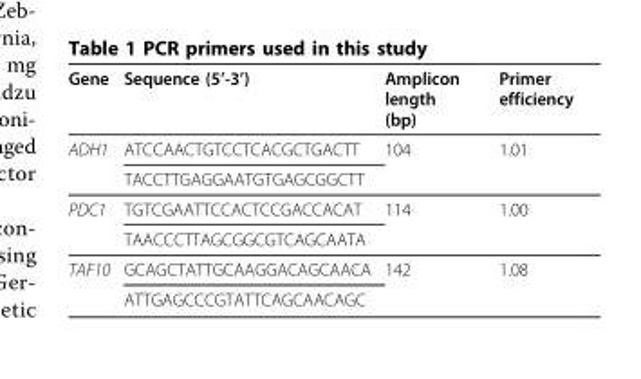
<table><thead><tr><td>Gene</td><td>Sequence (5’-3’)</td><td>Amplicon length (bp)</td><td>Primer efficiency</td></tr></thead><tbody><tr><td rowspan="2">ADH1</td><td>ATCCAACTGTCCTCACGCTGACTT</td><td>104</td><td>1.01</td></tr><tr><td>TACCTTGAGGAATGTGAGCGGCTT</td><td></td><td></td></tr><tr><td rowspan="2">PDC1</td><td>TGTCGAATTCCACTCCGACCACAT</td><td>114</td><td>1.00</td></tr><tr><td>TAACCCTTAGCGGCGTCAGCAATA</td><td></td><td></td></tr><tr><td rowspan="2">TAF10</td><td>GCAGCTATTGCAAGGACAGCAACA</td><td>142</td><td>1.08</td></tr><tr><td>ATTGAGCCCGTATTCAGCAACAGC</td><td></td><td></td></tr></tbody></table>